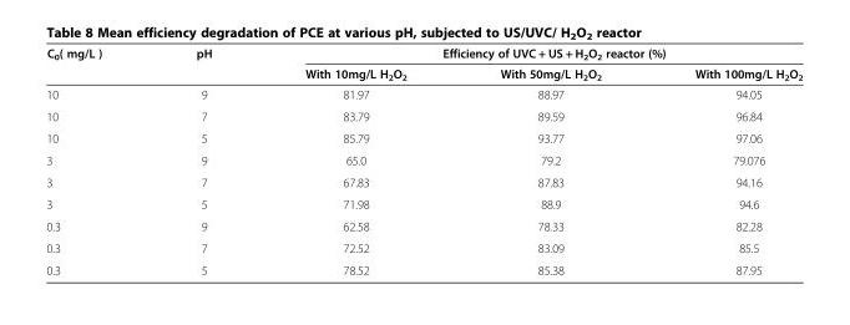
<table><thead><tr><td rowspan="2">C<sub>0</sub>( mg/L )</td><td rowspan="2">pH</td><td colspan="3">Efficiency of UVC + US + H<sub>2</sub>O<sub>2</sub> reactor (%)</td></tr><tr><td>With 10mg/L H<sub>2</sub>O<sub>2</sub></td><td>With 50mg/L H<sub>2</sub>O<sub>2</sub></td><td>With 100mg/L H<sub>2</sub>O<sub>2</sub></td></tr></thead><tbody><tr><td>10</td><td>9</td><td>81.97</td><td>88.97</td><td>94.05</td></tr><tr><td>10</td><td>7</td><td>83.79</td><td>89.59</td><td>96.84</td></tr><tr><td>10</td><td>5</td><td>85.79</td><td>93.77</td><td>97.06</td></tr><tr><td>3</td><td>9</td><td>65.0</td><td>79.2</td><td>79.076</td></tr><tr><td>3</td><td>7</td><td>67.83</td><td>87.83</td><td>94.16</td></tr><tr><td>3</td><td>5</td><td>71.98</td><td>88.9</td><td>94.6</td></tr><tr><td>0.3</td><td>9</td><td>62.58</td><td>78.33</td><td>82.28</td></tr><tr><td>0.3</td><td>7</td><td>72.52</td><td>83.09</td><td>85.5</td></tr><tr><td>0.3</td><td>5</td><td>78.52</td><td>85.38</td><td>87.95</td></tr></tbody></table>